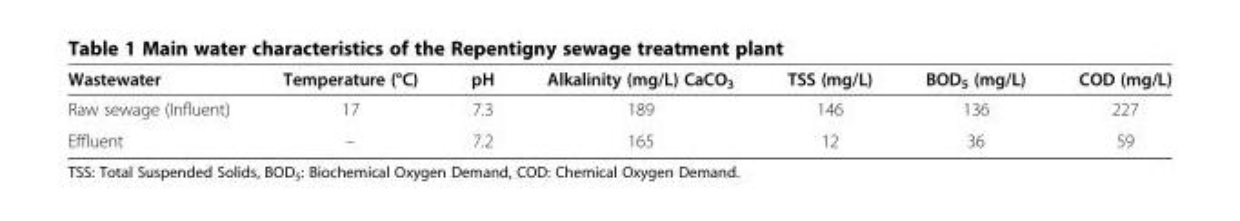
<table><thead><tr><td>Wastewater</td><td>Temperature (°C)</td><td>pH</td><td>Alkalinity (mg/L) CaCO<sub>3</sub></td><td>TSS (mg/L)</td><td>BOD<sub>5</sub> (mg/L)</td><td>COD (mg/L)</td></tr></thead><tbody><tr><td>Raw sewage (Influent)</td><td>17</td><td>7.3</td><td>189</td><td>146</td><td>136</td><td>227</td></tr><tr><td>Effluent</td><td>–</td><td>7.2</td><td>165</td><td>12</td><td>36</td><td>59</td></tr></tbody></table>